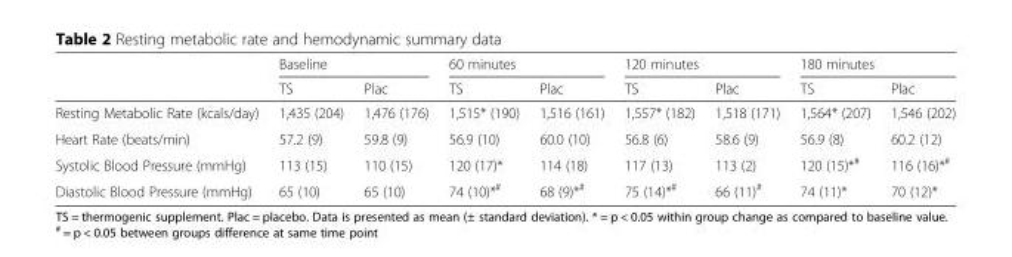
<table><thead><tr><td rowspan="2"></td><td colspan="2">Baseline</td><td colspan="2">60 minutes</td><td colspan="2">120 minutes</td><td colspan="2">180 minutes</td></tr><tr><td>TS</td><td>Plac</td><td>TS</td><td>Plac</td><td>TS</td><td>Plac</td><td>TS</td><td>Plac</td></tr></thead><tbody><tr><td>Resting Metabolic Rate (kcals/day)</td><td>1,435 (204)</td><td>1,476 (176)</td><td>1,515* (190)</td><td>1,516 (161)</td><td>1,557* (182)</td><td>1,518 (171)</td><td>1,564* (207)</td><td>1,546 (202)</td></tr><tr><td>Heart Rate (beats/min)</td><td>57.2 (9)</td><td>59.8 (9)</td><td>56.9 (10)</td><td>60.0 (10)</td><td>56.8 (6)</td><td>58.6 (9)</td><td>56.9 (8)</td><td>60.2 (12)</td></tr><tr><td>Systolic Blood Pressure (mmHg)</td><td>113 (15)</td><td>110 (15)</td><td>120 (17)*</td><td>114 (18)</td><td>117 (13)</td><td>113 (2)</td><td>120 (15)*<sup>#</sup></td><td>116 (16)*<sup>#</sup></td></tr><tr><td>Diastolic Blood Pressure (mmHg)</td><td>65 (10)</td><td>65 (10)</td><td>74 (10)*<sup>#</sup></td><td>68 (9)*<sup>#</sup></td><td>75 (14)*<sup>#</sup></td><td>66 (11)<sup>#</sup></td><td>74 (11)*</td><td>70 (12)*</td></tr></tbody></table>